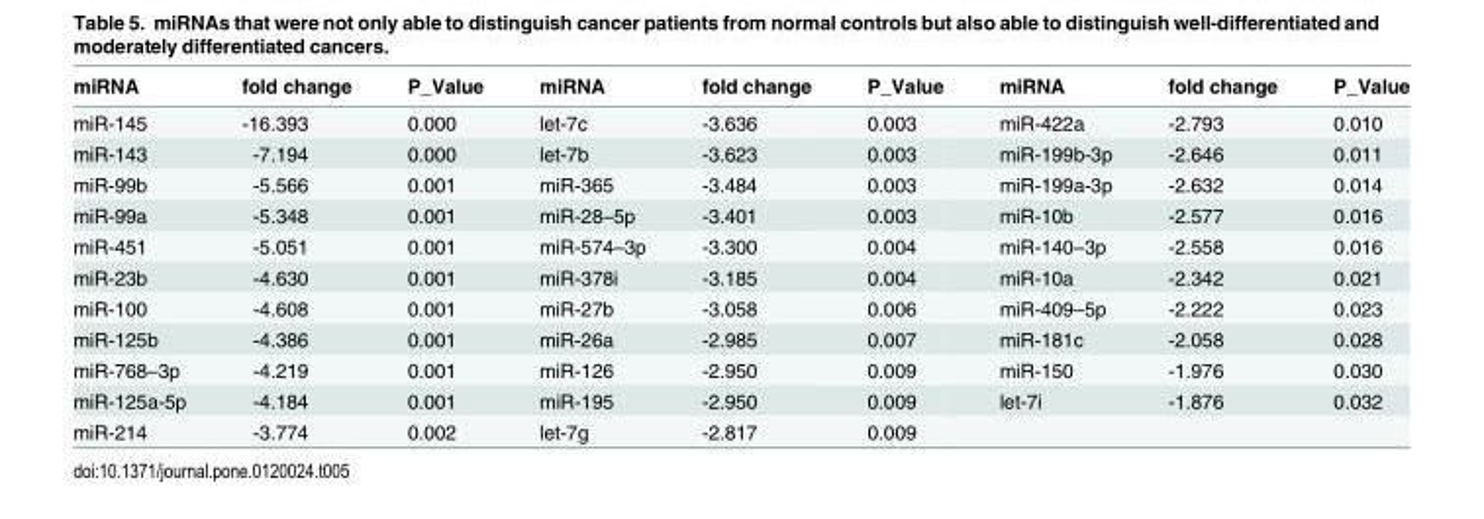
<table><thead><tr><td>miRNA</td><td>fold change</td><td>P_Value</td><td>miRNA</td><td>fold change</td><td>P_Value</td><td>miRNA</td><td>fold change</td><td>P_Value</td></tr></thead><tbody><tr><td>miR-145</td><td>-16.393</td><td>0.000</td><td>let-7c</td><td>-3.636</td><td>0.003</td><td>miR-422a</td><td>-2.793</td><td>0.010</td></tr><tr><td>miR-143</td><td>-7.194</td><td>0.000</td><td>let-7b</td><td>-3.623</td><td>0.003</td><td>miR-199b-3p</td><td>-2.646</td><td>0.011</td></tr><tr><td>miR-99b</td><td>-5.566</td><td>0.001</td><td>miR-365</td><td>-3.484</td><td>0.003</td><td>miR-199a-3p</td><td>-2.632</td><td>0.014</td></tr><tr><td>miR-99a</td><td>-5.348</td><td>0.001</td><td>miR-28–5p</td><td>-3.401</td><td>0.003</td><td>miR-10b</td><td>-2.577</td><td>0.016</td></tr><tr><td>miR-451</td><td>-5.051</td><td>0.001</td><td>miR-574–3p</td><td>-3.300</td><td>0.004</td><td>miR-140–3p</td><td>-2.558</td><td>0.016</td></tr><tr><td>miR-23b</td><td>-4.630</td><td>0.001</td><td>miR-378i</td><td>-3.185</td><td>0.004</td><td>miR-10a</td><td>-2.342</td><td>0.021</td></tr><tr><td>miR-100</td><td>-4.608</td><td>0.001</td><td>miR-27b</td><td>-3.058</td><td>0.006</td><td>miR-409–5p</td><td>-2.222</td><td>0.023</td></tr><tr><td>miR-125b</td><td>-4.386</td><td>0.001</td><td>miR-26a</td><td>-2.985</td><td>0.007</td><td>miR-181c</td><td>-2.058</td><td>0.028</td></tr><tr><td>miR-768–3p</td><td>-4.219</td><td>0.001</td><td>miR-126</td><td>-2.950</td><td>0.009</td><td>miR-150</td><td>-1.976</td><td>0.030</td></tr><tr><td>miR-125a-5p</td><td>-4.184</td><td>0.001</td><td>miR-195</td><td>-2.950</td><td>0.009</td><td>let-7i</td><td>-1.876</td><td>0.032</td></tr><tr><td>miR-214</td><td>-3.774</td><td>0.002</td><td>let-7g</td><td>-2.817</td><td>0.009</td><td></td><td></td><td></td></tr></tbody></table>